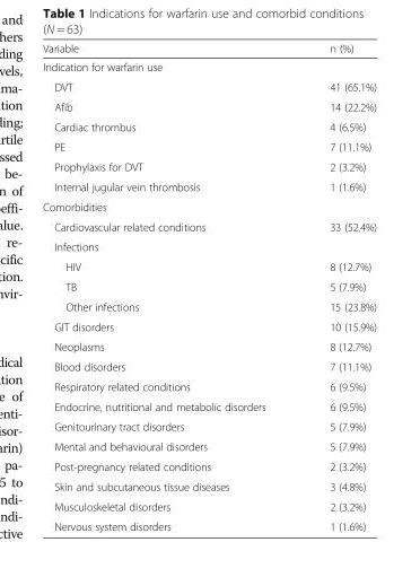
<table><thead><tr><td>Variable</td><td>n (%)</td></tr></thead><tbody><tr><td colspan="2">Indication for warfarin use</td></tr><tr><td>DVT</td><td>41 (65.1%)</td></tr><tr><td>Afib</td><td>14 (22.2%)</td></tr><tr><td>Cardiac thrombus</td><td>4 (6.5%)</td></tr><tr><td>PE</td><td>7 (11.1%)</td></tr><tr><td>Prophylaxis for DVT</td><td>2 (3.2%)</td></tr><tr><td>Internal jugular vein thrombosis</td><td>1 (1.6%)</td></tr><tr><td colspan="2">Comorbidities</td></tr><tr><td>Cardiovascular related conditions</td><td>33 (52.4%)</td></tr><tr><td colspan="2">Infections</td></tr><tr><td>HIV</td><td>8 (12.7%)</td></tr><tr><td>TB</td><td>5 (7.9%)</td></tr><tr><td>Other infections</td><td>15 (23.8%)</td></tr><tr><td>GIT disorders</td><td>10 (15.9%)</td></tr><tr><td>Neoplasms</td><td>8 (12.7%)</td></tr><tr><td>Blood disorders</td><td>7 (11.1%)</td></tr><tr><td>Respiratory related conditions</td><td>6 (9.5%)</td></tr><tr><td>Endocrine, nutritional and metabolic disorders</td><td>6 (9.5%)</td></tr><tr><td>Genitourinary tract disorders</td><td>5 (7.9%)</td></tr><tr><td>Mental and behavioural disorders</td><td>5 (7.9%)</td></tr><tr><td>Post-pregnancy related conditions</td><td>2 (3.2%)</td></tr><tr><td>Skin and subcutaneous tissue diseases</td><td>3 (4.8%)</td></tr><tr><td>Musculoskeletal disorders</td><td>2 (3.2%)</td></tr><tr><td>Nervous system disorders</td><td>1 (1.6%)</td></tr></tbody></table>